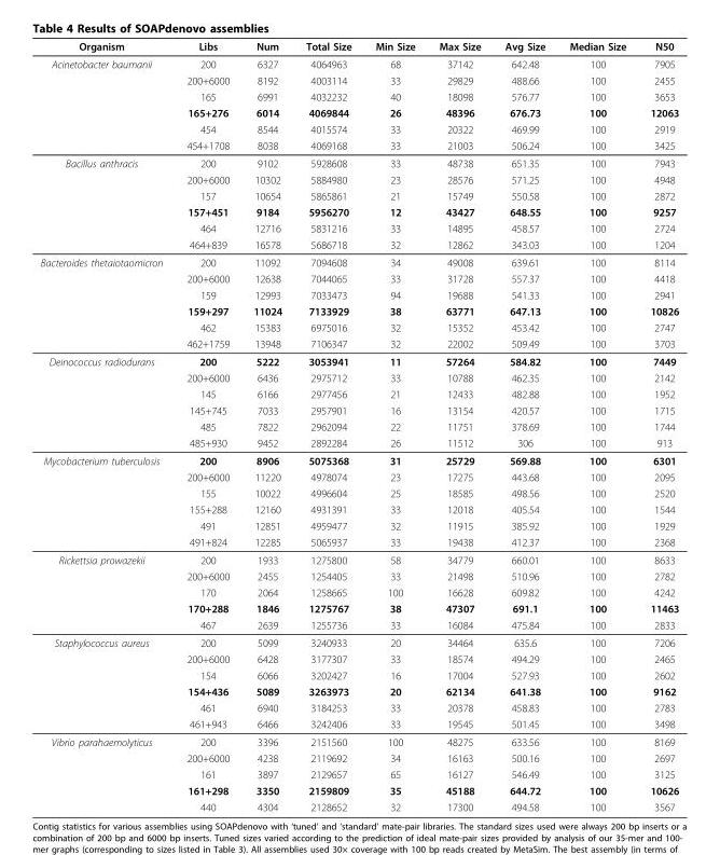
<table><thead><tr><td>Organism</td><td>Libs</td><td>Num</td><td>Total Size</td><td>Min Size</td><td>Max Size</td><td>Avg Size</td><td>Median Size</td><td>N50</td></tr></thead><tbody><tr><td rowspan="6">Acinetobacter baumanii</td><td>200</td><td>6327</td><td>4064963</td><td>68</td><td>37142</td><td>642.48</td><td>100</td><td>7905</td></tr><tr><td>200+6000</td><td>8192</td><td>4003114</td><td>33</td><td>29829</td><td>488.66</td><td>100</td><td>2455</td></tr><tr><td>165</td><td>6991</td><td>4032232</td><td>40</td><td>18098</td><td>576.77</td><td>100</td><td>3653</td></tr><tr><td>165+276</td><td>6014</td><td>4069844</td><td>26</td><td>48396</td><td>676.73</td><td>100</td><td>12063</td></tr><tr><td>454</td><td>8544</td><td>4015574</td><td>33</td><td>20322</td><td>469.99</td><td>100</td><td>2919</td></tr><tr><td>454+1708</td><td>8038</td><td>4069168</td><td>33</td><td>21003</td><td>506.24</td><td>100</td><td>3425</td></tr><tr><td rowspan="6">Bacillus anthracis</td><td>200</td><td>9102</td><td>5928608</td><td>33</td><td>48738</td><td>651.35</td><td>100</td><td>7943</td></tr><tr><td>200+6000</td><td>10302</td><td>5884980</td><td>23</td><td>28576</td><td>571.25</td><td>100</td><td>4948</td></tr><tr><td>157</td><td>10654</td><td>5865861</td><td>21</td><td>15749</td><td>550.58</td><td>100</td><td>2872</td></tr><tr><td>157+451</td><td>9184</td><td>5956270</td><td>12</td><td>43427</td><td>648.55</td><td>100</td><td>9257</td></tr><tr><td>464</td><td>12716</td><td>5831216</td><td>33</td><td>14895</td><td>458.57</td><td>100</td><td>2724</td></tr><tr><td>464+839</td><td>16578</td><td>5686718</td><td>32</td><td>12862</td><td>343.03</td><td>100</td><td>1204</td></tr><tr><td rowspan="6">Bacteroides thetaiotaomicron</td><td>200</td><td>11092</td><td>7094608</td><td>34</td><td>49008</td><td>639.61</td><td>100</td><td>8114</td></tr><tr><td>200+6000</td><td>12638</td><td>7044065</td><td>33</td><td>31728</td><td>557.37</td><td>100</td><td>4418</td></tr><tr><td>159</td><td>12993</td><td>7033473</td><td>94</td><td>19688</td><td>541.33</td><td>100</td><td>2941</td></tr><tr><td>159+297</td><td>11024</td><td>7133929</td><td>38</td><td>63771</td><td>647.13</td><td>100</td><td>10826</td></tr><tr><td>462</td><td>15383</td><td>6975016</td><td>32</td><td>15352</td><td>453.42</td><td>100</td><td>2747</td></tr><tr><td>462+1759</td><td>13948</td><td>7106347</td><td>32</td><td>22002</td><td>509.49</td><td>100</td><td>3703</td></tr><tr><td rowspan="6">Deinococcus radiodurans</td><td>200</td><td>5222</td><td>3053941</td><td>11</td><td>57264</td><td>584.82</td><td>100</td><td>7449</td></tr><tr><td>200+6000</td><td>6436</td><td>2975712</td><td>33</td><td>10788</td><td>462.35</td><td>100</td><td>2142</td></tr><tr><td>145</td><td>6166</td><td>2977456</td><td>21</td><td>12433</td><td>482.88</td><td>100</td><td>1952</td></tr><tr><td>145+745</td><td>7033</td><td>2957901</td><td>16</td><td>13154</td><td>420.57</td><td>100</td><td>1715</td></tr><tr><td>485</td><td>7822</td><td>2962094</td><td>22</td><td>11751</td><td>378.69</td><td>100</td><td>1744</td></tr><tr><td>485+930</td><td>9452</td><td>2892284</td><td>26</td><td>11512</td><td>306</td><td>100</td><td>913</td></tr><tr><td rowspan="6">Mycobacterium tuberculosis</td><td>200</td><td>8906</td><td>5075368</td><td>31</td><td>25729</td><td>569.88</td><td>100</td><td>6301</td></tr><tr><td>200+6000</td><td>11220</td><td>4978074</td><td>23</td><td>17275</td><td>443.68</td><td>100</td><td>2095</td></tr><tr><td>155</td><td>10022</td><td>4996604</td><td>25</td><td>18585</td><td>498.56</td><td>100</td><td>2520</td></tr><tr><td>155+288</td><td>12160</td><td>4931391</td><td>33</td><td>12018</td><td>405.54</td><td>100</td><td>1544</td></tr><tr><td>491</td><td>12851</td><td>4959477</td><td>32</td><td>11915</td><td>385.92</td><td>100</td><td>1929</td></tr><tr><td>491+824</td><td>12285</td><td>5065937</td><td>33</td><td>19438</td><td>412.37</td><td>100</td><td>2368</td></tr><tr><td rowspan="5">Rickettsia prowazekii</td><td>200</td><td>1933</td><td>1275800</td><td>58</td><td>34779</td><td>660.01</td><td>100</td><td>8633</td></tr><tr><td>200+6000</td><td>2455</td><td>1254405</td><td>33</td><td>21498</td><td>510.96</td><td>100</td><td>2782</td></tr><tr><td>170</td><td>2064</td><td>1258665</td><td>100</td><td>16628</td><td>609.82</td><td>100</td><td>4242</td></tr><tr><td>170+288</td><td>1846</td><td>1275767</td><td>38</td><td>47307</td><td>691.1</td><td>100</td><td>11463</td></tr><tr><td>467</td><td>2639</td><td>1255736</td><td>33</td><td>16084</td><td>475.84</td><td>100</td><td>2833</td></tr><tr><td rowspan="6">Staphylococcus aureus</td><td>200</td><td>5099</td><td>3240933</td><td>20</td><td>34464</td><td>635.6</td><td>100</td><td>7206</td></tr><tr><td>200+6000</td><td>6428</td><td>3177307</td><td>33</td><td>18574</td><td>494.29</td><td>100</td><td>2465</td></tr><tr><td>154</td><td>6066</td><td>3202427</td><td>16</td><td>17004</td><td>527.93</td><td>100</td><td>2602</td></tr><tr><td>154+436</td><td>5089</td><td>3263973</td><td>20</td><td>62134</td><td>641.38</td><td>100</td><td>9162</td></tr><tr><td>461</td><td>6940</td><td>3184253</td><td>33</td><td>20378</td><td>458.83</td><td>100</td><td>2783</td></tr><tr><td>461+943</td><td>6466</td><td>3242406</td><td>33</td><td>19545</td><td>501.45</td><td>100</td><td>3498</td></tr><tr><td rowspan="5">Vibrio parahaemolyticus</td><td>200</td><td>3396</td><td>2151560</td><td>100</td><td>48275</td><td>633.56</td><td>100</td><td>8169</td></tr><tr><td>200+6000</td><td>4238</td><td>2119692</td><td>34</td><td>16163</td><td>500.16</td><td>100</td><td>2697</td></tr><tr><td>161</td><td>3897</td><td>2129657</td><td>65</td><td>16127</td><td>546.49</td><td>100</td><td>3125</td></tr><tr><td>161+298</td><td>3350</td><td>2159809</td><td>35</td><td>45188</td><td>644.72</td><td>100</td><td>10626</td></tr><tr><td>440</td><td>4304</td><td>2128652</td><td>32</td><td>17300</td><td>494.58</td><td>100</td><td>3567</td></tr></tbody></table>